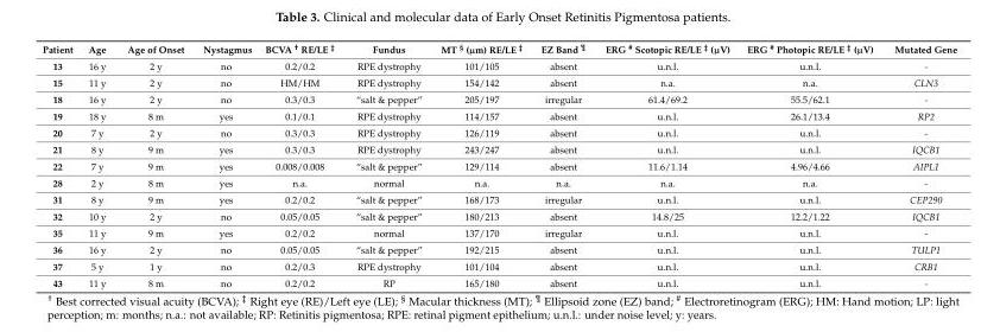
<table><thead><tr><td>Patient</td><td>Age</td><td>Age of Onset</td><td>Nystagmus</td><td>BCVA <sup>†</sup> RE/LE <sup>‡</sup></td><td>Fundus</td><td>MT <sup>§</sup> (µm) RE/LE <sup>‡</sup></td><td>EZ Band <sup>¶</sup></td><td>ERG <sup>#</sup> Scotopic RE/LE <sup>‡</sup> (µV)</td><td>ERG <sup>#</sup> Photopic RE/LE <sup>‡</sup> (µV)</td><td>Mutated Gene</td></tr></thead><tbody><tr><td>13</td><td>16 y</td><td>2 y</td><td>no</td><td>0.2/0.2</td><td>RPE dystrophy</td><td>101/105</td><td>absent</td><td>u.n.l.</td><td>u.n.l.</td><td>-</td></tr><tr><td>15</td><td>11 y</td><td>2 y</td><td>no</td><td>HM/HM</td><td>RPE dystrophy</td><td>154/142</td><td>absent</td><td>n.a.</td><td>n.a.</td><td>CLN3</td></tr><tr><td>18</td><td>16 y</td><td>2 y</td><td>no</td><td>0.3/0.3</td><td>“salt &amp; pepper”</td><td>205/197</td><td>irregular</td><td>61.4/69.2</td><td>55.5/62.1</td><td>-</td></tr><tr><td>19</td><td>18 y</td><td>8 m</td><td>yes</td><td>0.1/0.1</td><td>RPE dystrophy</td><td>114/157</td><td>absent</td><td>u.n.l.</td><td>26.1/13.4</td><td>RP2</td></tr><tr><td>20</td><td>7 y</td><td>2 y</td><td>no</td><td>0.3/0.3</td><td>RPE dystrophy</td><td>126/119</td><td>absent</td><td>u.n.l.</td><td>u.n.l.</td><td>-</td></tr><tr><td>21</td><td>8 y</td><td>9 m</td><td>yes</td><td>0.3/0.3</td><td>RPE dystrophy</td><td>243/247</td><td>absent</td><td>u.n.l.</td><td>u.n.l.</td><td>IQCB1</td></tr><tr><td>22</td><td>7 y</td><td>9 m</td><td>yes</td><td>0.008/0.008</td><td>“salt &amp; pepper”</td><td>129/114</td><td>absent</td><td>11.6/1.14</td><td>4.96/4.66</td><td>AIPL1</td></tr><tr><td>28</td><td>2 y</td><td>8 m</td><td>yes</td><td>n.a.</td><td>normal</td><td>n.a.</td><td>n.a.</td><td>n.a.</td><td>n.a.</td><td>-</td></tr><tr><td>31</td><td>8 y</td><td>9 m</td><td>yes</td><td>0.2/0.2</td><td>“salt &amp; pepper”</td><td>168/173</td><td>irregular</td><td>u.n.l.</td><td>u.n.l.</td><td>CEP290</td></tr><tr><td>32</td><td>10 y</td><td>2 y</td><td>no</td><td>0.05/0.05</td><td>“salt &amp; pepper”</td><td>180/213</td><td>absent</td><td>14.8/25</td><td>12.2/1.22</td><td>IQCB1</td></tr><tr><td>35</td><td>11 y</td><td>9 m</td><td>yes</td><td>0.2/0.2</td><td>normal</td><td>137/170</td><td>irregular</td><td>u.n.l.</td><td>u.n.l.</td><td>-</td></tr><tr><td>36</td><td>16 y</td><td>2 y</td><td>no</td><td>0.05/0.05</td><td>“salt &amp; pepper”</td><td>192/215</td><td>absent</td><td>u.n.l.</td><td>u.n.l.</td><td>TULP1</td></tr><tr><td>37</td><td>5 y</td><td>1 y</td><td>no</td><td>0.2/0.3</td><td>RPE dystrophy</td><td>101/104</td><td>absent</td><td>u.n.l.</td><td>u.n.l.</td><td>CRB1</td></tr><tr><td>43</td><td>11 y</td><td>8 m</td><td>no</td><td>0.2/0.2</td><td>RP</td><td>165/180</td><td>absent</td><td>u.n.l.</td><td>u.n.l.</td><td>-</td></tr></tbody></table>